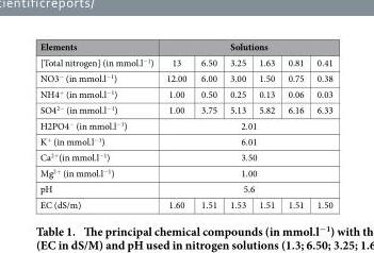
<table><thead><tr><td rowspan="2">Elements [Total nitrogen] (in mmol.l<sup>−1</sup>)</td><td colspan="6">Solutions</td></tr><tr><td>13</td><td>6.50</td><td>3.25</td><td>1.63</td><td>0.81</td><td>0.41</td></tr></thead><tbody><tr><td>NO3<sup>−</sup> (in mmol.l<sup>−1</sup>)</td><td>12.00</td><td>6.00</td><td>3.00</td><td>1.50</td><td>0.75</td><td>0.38</td></tr><tr><td>NH4<sup>+</sup> (in mmol.l<sup>−1</sup>)</td><td>1.00</td><td>0.50</td><td>0.25</td><td>0.13</td><td>0.06</td><td>0.03</td></tr><tr><td>SO4<sup>2−</sup> (in mmol.l<sup>−1</sup>)</td><td>1.00</td><td>3.75</td><td>5.13</td><td>5.82</td><td>6.16</td><td>6.33</td></tr><tr><td>H2PO4<sup>−</sup> (in mmol.l<sup>−1</sup>)</td><td colspan="6">2.01</td></tr><tr><td>K<sup>+</sup> (in mmol.l<sup>−1</sup>)</td><td colspan="6">6.01</td></tr><tr><td>Ca<sup>2+</sup>(in mmol.l<sup>−1</sup>)</td><td colspan="6">3.50</td></tr><tr><td>Mg<sup>2+</sup> (in mmol.l<sup>−1</sup>)</td><td colspan="6">1.00</td></tr><tr><td>pH</td><td colspan="6">5.6</td></tr><tr><td>EC (dS/m)</td><td>1.60</td><td>1.51</td><td>1.53</td><td>1.51</td><td>1.51</td><td>1.50</td></tr></tbody></table>